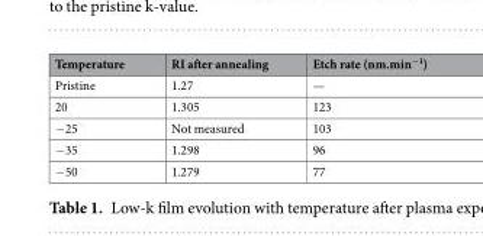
<table><thead><tr><td>Temperature</td><td>RI after annealing</td><td>Etch rate (nm.min<sup>−1</sup>)</td></tr></thead><tbody><tr><td>Pristine</td><td>1.27</td><td>—</td></tr><tr><td>20</td><td>1.305</td><td>123</td></tr><tr><td>−25</td><td>Not measured</td><td>103</td></tr><tr><td>−35</td><td>1.298</td><td>96</td></tr><tr><td>−50</td><td>1.279</td><td>77</td></tr></tbody></table>